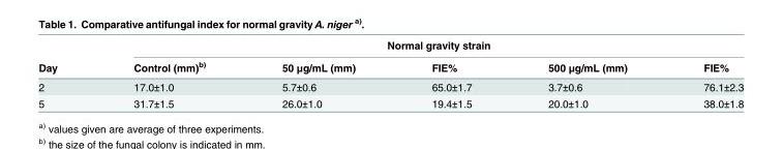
<table><thead><tr><td rowspan="2">Day</td><td colspan="5">Normal gravity strain</td></tr><tr><td>Control (mm)<sup>b)</sup></td><td>50 μg/mL (mm)</td><td>FIE%</td><td>500 μg/mL (mm)</td><td>FIE%</td></tr></thead><tbody><tr><td>2</td><td>17.0±1.0</td><td>5.7±0.6</td><td>65.0±1.7</td><td>3.7±0.6</td><td>76.1±2.3</td></tr><tr><td>5</td><td>31.7±1.5</td><td>26.0±1.0</td><td>19.4±1.5</td><td>20.0±1.0</td><td>38.0±1.8</td></tr></tbody></table>